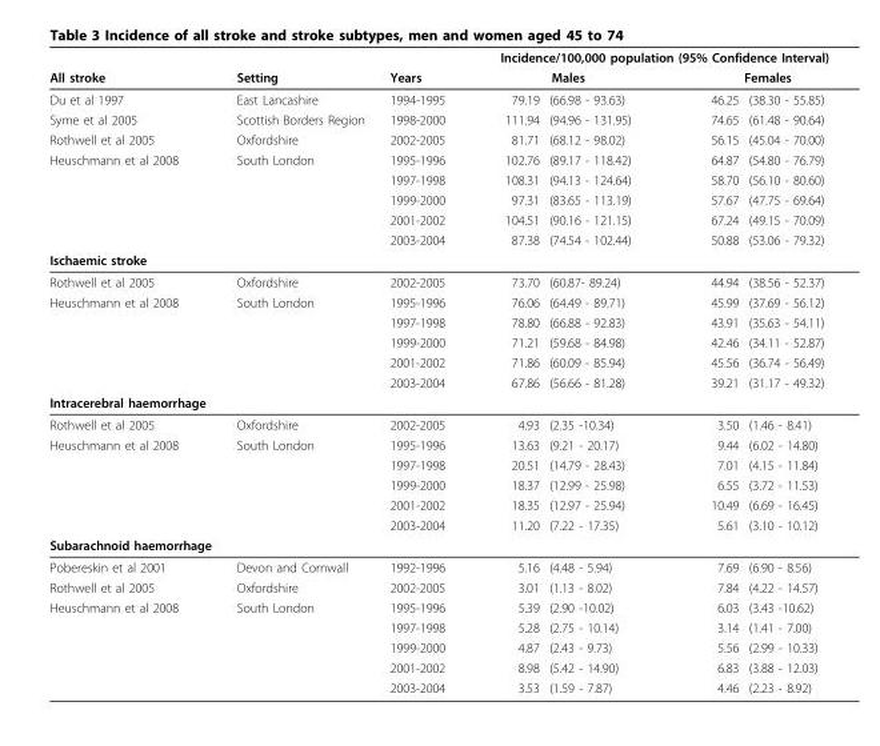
<table><thead><tr><td rowspan="3">All stroke Du et al 1997</td><td rowspan="3">Setting East Lancashire</td><td rowspan="3">Years 1994-1995</td><td colspan="4">Incidence/100,000 population (95% Confidence Interval)</td></tr><tr><td colspan="2">Males</td><td colspan="2">Females</td></tr><tr><td>79.19</td><td>(66.98 - 93.63)</td><td>46.25</td><td>(38.30 - 55.85)</td></tr></thead><tbody><tr><td>Syme et al 2005</td><td>Scottish Borders Region</td><td>1998-2000</td><td>111.94</td><td>(94.96 - 131.95)</td><td>74.65</td><td>(61.48 - 90.64)</td></tr><tr><td>Rothwell et al 2005</td><td>Oxfordshire</td><td>2002-2005</td><td>81.71</td><td>(68.12 - 98.02)</td><td>56.15</td><td>(45.04 - 70.00)</td></tr><tr><td rowspan="5">Heuschmann et al 2008</td><td>South London</td><td>1995-1996</td><td>102.76</td><td>(89.17 - 118.42)</td><td>64.87</td><td>(54.80 - 76.79)</td></tr><tr><td></td><td>1997-1998</td><td>108.31</td><td>(94.13 - 124.64)</td><td>58.70</td><td>(56.10 - 80.60)</td></tr><tr><td></td><td>1999-2000</td><td>97.31</td><td>(83.65 - 113.19)</td><td>57.67</td><td>(47.75 - 69.64)</td></tr><tr><td></td><td>2001-2002</td><td>104.51</td><td>(90.16 - 121.15)</td><td>67.24</td><td>(49.15 - 70.09)</td></tr><tr><td></td><td>2003-2004</td><td>87.38</td><td>(74.54 - 102.44)</td><td>50.88</td><td>(53.06 - 79.32)</td></tr><tr><td colspan="7">Ischaemic stroke</td></tr><tr><td>Rothwell et al 2005</td><td>Oxfordshire</td><td>2002-2005</td><td>73.70</td><td>(60.87- 89.24)</td><td>44.94</td><td>(38.56 - 52.37)</td></tr><tr><td rowspan="5">Heuschmann et al 2008</td><td>South London</td><td>1995-1996</td><td>76.06</td><td>(64.49 - 89.71)</td><td>45.99</td><td>(37.69 - 56.12)</td></tr><tr><td></td><td>1997-1998</td><td>78.80</td><td>(66.88 - 92.83)</td><td>43.91</td><td>(35.63 - 54.11)</td></tr><tr><td></td><td>1999-2000</td><td>71.21</td><td>(59.68 - 84.98)</td><td>42.46</td><td>(34.11 - 52.87)</td></tr><tr><td></td><td>2001-2002</td><td>71.86</td><td>(60.09 - 85.94)</td><td>45.56</td><td>(36.74 - 56.49)</td></tr><tr><td></td><td>2003-2004</td><td>67.86</td><td>(56.66 - 81.28)</td><td>39.21</td><td>(31.17 - 49.32)</td></tr><tr><td colspan="7">Intracerebral haemorrhage</td></tr><tr><td>Rothwell et al 2005</td><td>Oxfordshire</td><td>2002-2005</td><td>4.93</td><td>(2.35 -10.34)</td><td>3.50</td><td>(1.46 - 8.41)</td></tr><tr><td rowspan="5">Heuschmann et al 2008</td><td>South London</td><td>1995-1996</td><td>13.63</td><td>(9.21 - 20.17)</td><td>9.44</td><td>(6.02 - 14.80)</td></tr><tr><td></td><td>1997-1998</td><td>20.51</td><td>(14.79 - 28.43)</td><td>7.01</td><td>(4.15 - 11.84)</td></tr><tr><td></td><td>1999-2000</td><td>18.37</td><td>(12.99 - 25.98)</td><td>6.55</td><td>(3.72 - 11.53)</td></tr><tr><td></td><td>2001-2002</td><td>18.35</td><td>(12.97 - 25.94)</td><td>10.49</td><td>(6.69 - 16.45)</td></tr><tr><td></td><td>2003-2004</td><td>11.20</td><td>(7.22 - 17.35)</td><td>5.61</td><td>(3.10 - 10.12)</td></tr><tr><td colspan="7">Subarachnoid haemorrhage</td></tr><tr><td>Pobereskin et al 2001</td><td>Devon and Cornwall</td><td>1992-1996</td><td>5.16</td><td>(4.48 - 5.94)</td><td>7.69</td><td>(6.90 - 8.56)</td></tr><tr><td>Rothwell et al 2005</td><td>Oxfordshire</td><td>2002-2005</td><td>3.01</td><td>(1.13 - 8.02)</td><td>7.84</td><td>(4.22 - 14.57)</td></tr><tr><td rowspan="5">Heuschmann et al 2008</td><td>South London</td><td>1995-1996</td><td>5.39</td><td>(2.90 -10.02)</td><td>6.03</td><td>(3.43 -10.62)</td></tr><tr><td></td><td>1997-1998</td><td>5.28</td><td>(2.75 - 10.14)</td><td>3.14</td><td>(1.41 - 7.00)</td></tr><tr><td></td><td>1999-2000</td><td>4.87</td><td>(2.43 - 9.73)</td><td>5.56</td><td>(2.99 - 10.33)</td></tr><tr><td></td><td>2001-2002</td><td>8.98</td><td>(5.42 - 14.90)</td><td>6.83</td><td>(3.88 - 12.03)</td></tr><tr><td></td><td>2003-2004</td><td>3.53</td><td>(1.59 - 7.87)</td><td>4.46</td><td>(2.23 - 8.92)</td></tr></tbody></table>